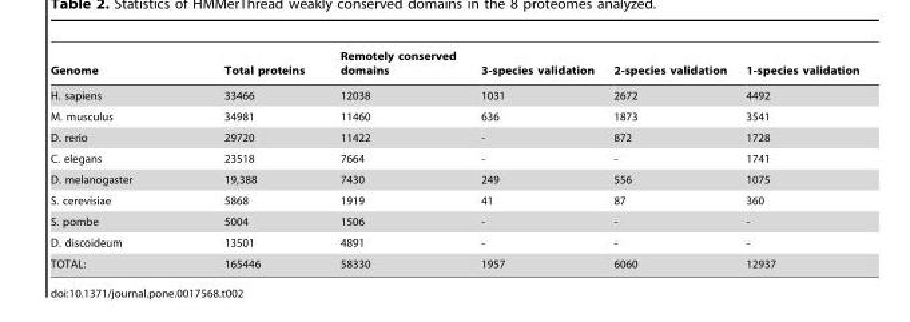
<table><thead><tr><td>Genome</td><td>Total proteins</td><td>Remotely conserved domains</td><td>3-species validation</td><td>2-species validation</td><td>1-species validation</td></tr></thead><tbody><tr><td>H. sapiens</td><td>33466</td><td>12038</td><td>1031</td><td>2672</td><td>4492</td></tr><tr><td>M. musculus</td><td>34981</td><td>11460</td><td>636</td><td>1873</td><td>3541</td></tr><tr><td>D. rerio</td><td>29720</td><td>11422</td><td>-</td><td>872</td><td>1728</td></tr><tr><td>C. elegans</td><td>23518</td><td>7664</td><td>-</td><td>-</td><td>1741</td></tr><tr><td>D. melanogaster</td><td>19,388</td><td>7430</td><td>249</td><td>556</td><td>1075</td></tr><tr><td>S. cerevisiae</td><td>5868</td><td>1919</td><td>41</td><td>87</td><td>360</td></tr><tr><td>S. pombe</td><td>5004</td><td>1506</td><td>-</td><td>-</td><td>-</td></tr><tr><td>D. discoideum</td><td>13501</td><td>4891</td><td>-</td><td>-</td><td>-</td></tr><tr><td>TOTAL:</td><td>165446</td><td>58330</td><td>1957</td><td>6060</td><td>12937</td></tr></tbody></table>